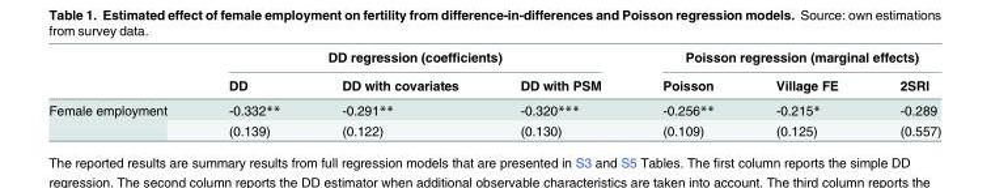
<table><thead><tr><td rowspan="2"></td><td colspan="3">DD regression (coefficients)</td><td colspan="3">Poisson regression (marginal effects)</td></tr><tr><td>DD</td><td>DD with covariates</td><td>DD with PSM</td><td>Poisson</td><td>Village FE</td><td>2SRI</td></tr></thead><tbody><tr><td rowspan="2">Female employment</td><td>-0.332**</td><td>-0.291**</td><td>-0.320***</td><td>-0.256**</td><td>-0.215*</td><td>-0.289</td></tr><tr><td>(0.139)</td><td>(0.122)</td><td>(0.130)</td><td>(0.109)</td><td>(0.125)</td><td>(0.557)</td></tr></tbody></table>